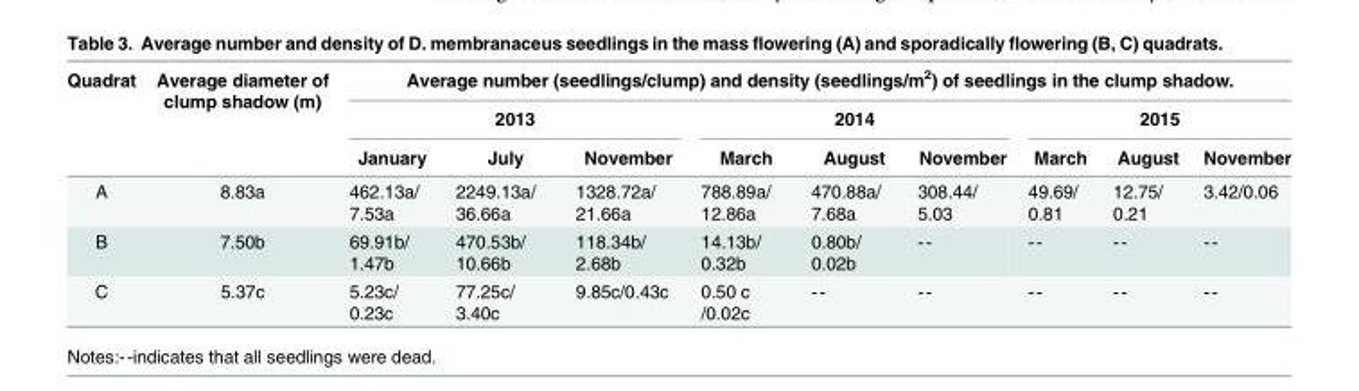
<table><thead><tr><td rowspan="3">Quadrat</td><td rowspan="3">Average diameter of clump shadow (m)</td><td colspan="9">Average number (seedlings/clump) and density (seedlings/m<sup>2</sup>) of seedlings in the clump shadow.</td></tr><tr><td colspan="3">2013</td><td colspan="3">2014</td><td colspan="3">2015</td></tr><tr><td>January</td><td>July</td><td>November</td><td>March</td><td>August</td><td>November</td><td>March</td><td>August</td><td>November</td></tr></thead><tbody><tr><td>A</td><td>8.83a</td><td>462.13a/ 7.53a</td><td>2249.13a/ 36.66a</td><td>1328.72a/ 21.66a</td><td>788.89a/ 12.86a</td><td>470.88a/ 7.68a</td><td>308.44/ 5.03</td><td>49.69/ 0.81</td><td>12.75/ 0.21</td><td>3.42/0.06</td></tr><tr><td>B</td><td>7.50b</td><td>69.91b/ 1.47b</td><td>470.53b/ 10.66b</td><td>118.34b/ 2.68b</td><td>14.13b/ 0.32b</td><td>0.80b/ 0.02b</td><td>--</td><td>--</td><td>--</td><td>--</td></tr><tr><td>C</td><td>5.37c</td><td>5.23c/ 0.23c</td><td>77.25c/ 3.40c</td><td>9.85c/0.43c</td><td>0.50 c /0.02c</td><td>--</td><td>--</td><td>--</td><td>--</td><td>--</td></tr></tbody></table>